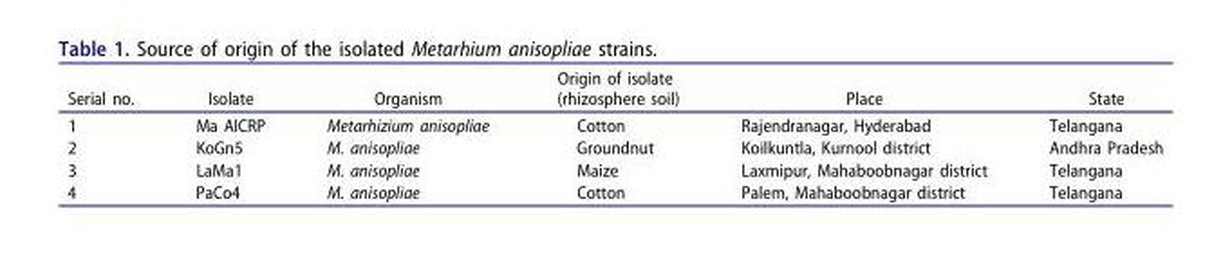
<table><thead><tr><td>Serial no.</td><td>Isolate</td><td>Organism</td><td>Origin of isolate (rhizosphere soil)</td><td>Place</td><td>State</td></tr></thead><tbody><tr><td>1</td><td>Ma AICRP</td><td>Metarhizium anisopliae</td><td>Cotton</td><td>Rajendranagar, Hyderabad</td><td>Telangana</td></tr><tr><td>2</td><td>KoGn5</td><td>M. anisopliae</td><td>Groundnut</td><td>Koilkuntla, Kurnool district</td><td>Andhra Pradesh</td></tr><tr><td>3</td><td>LaMa1</td><td>M. anisopliae</td><td>Maize</td><td>Laxmipur, Mahaboobnagar district</td><td>Telangana</td></tr><tr><td>4</td><td>PaCo4</td><td>M. anisopliae</td><td>Cotton</td><td>Palem, Mahaboobnagar district</td><td>Telangana</td></tr></tbody></table>